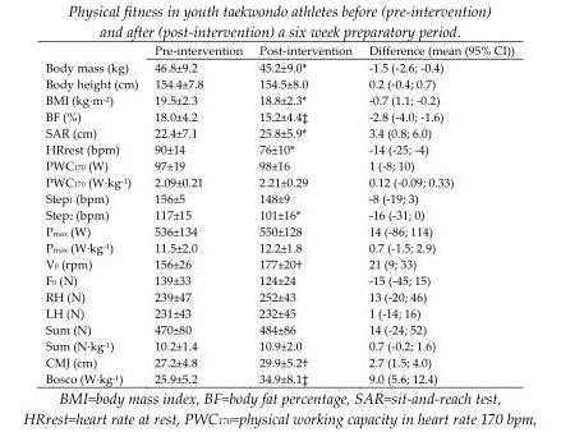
<table><thead><tr><td></td><td>Pre-intervention</td><td>Post-intervention</td><td>Difference (mean (95% CI))</td></tr></thead><tbody><tr><td>Body mass (kg)</td><td>46.8±9.2</td><td>45.2±9.0*</td><td>-1.5 (-2.6; -0.4)</td></tr><tr><td>Body height (cm)</td><td>154.4±7.8</td><td>154.5±8.0</td><td>0.2 (-0.4; 0.7)</td></tr><tr><td>BMI (kg·m<sup>-2</sup>)</td><td>19.5±2.3</td><td>18.8±2.3*</td><td>-0.7 (1.1; -0.2)</td></tr><tr><td>BF (%)</td><td>18.0±4.2</td><td>15.2±4.4‡</td><td>-2.8 (-4.0; -1.6)</td></tr><tr><td>SAR (cm)</td><td>22.4±7.1</td><td>25.8±5.9*</td><td>3.4 (0.8; 6.0)</td></tr><tr><td>HRrest (bpm)</td><td>90±14</td><td>76±10*</td><td>-14 (-25; -4)</td></tr><tr><td>PWC<sub>170</sub> (W)</td><td>97±19</td><td>98±16</td><td>1 (-8; 10)</td></tr><tr><td>PWC<sub>170</sub> (W·kg<sup>-1</sup>)</td><td>2.09±0.21</td><td>2.21±0.29</td><td>0.12 (-0.09; 0.33)</td></tr><tr><td>Step<sub>1</sub> (bpm)</td><td>156±5</td><td>148±9</td><td>-8 (-19; 3)</td></tr><tr><td>Step<sub>2</sub> (bpm)</td><td>117±15</td><td>101±16*</td><td>-16 (-31; 0)</td></tr><tr><td>P<sub>max</sub> (W)</td><td>536±134</td><td>550±128</td><td>14 (-86; 114)</td></tr><tr><td>P<sub>max</sub> (W·kg<sup>-1</sup>)</td><td>11.5±2.0</td><td>12.2±1.8</td><td>0.7 (-1.5; 2.9)</td></tr><tr><td>V<sub>0</sub> (rpm)</td><td>156±26</td><td>177±20†</td><td>21 (9; 33)</td></tr><tr><td>F<sub>0</sub> (N)</td><td>139±33</td><td>124±24</td><td>-15 (-45; 15)</td></tr><tr><td>RH (N)</td><td>239±47</td><td>252±43</td><td>13 (-20; 46)</td></tr><tr><td>LH (N)</td><td>231±43</td><td>232±45</td><td>1 (-14; 16)</td></tr><tr><td>Sum (N)</td><td>470±80</td><td>484±86</td><td>14 (-24; 52)</td></tr><tr><td>Sum (N·kg<sup>-1</sup>)</td><td>10.2±1.4</td><td>10.9±2.0</td><td>0.7 (-0.2; 1.6)</td></tr><tr><td>CMJ (cm)</td><td>27.2±4.8</td><td>29.9±5.2†</td><td>2.7 (1.5; 4.0)</td></tr><tr><td>Bosco (W·kg<sup>-1</sup>)</td><td>25.9±5.2</td><td>34.9±8.1‡</td><td>9.0 (5.6; 12.4)</td></tr></tbody></table>